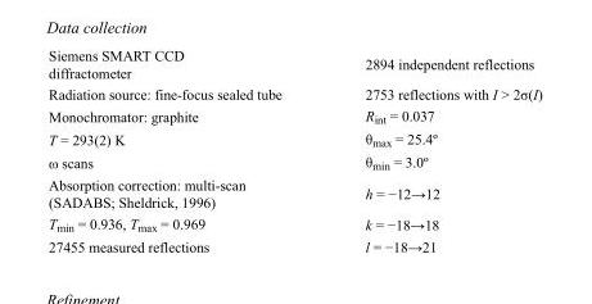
<table><tbody><tr><td>Siemens SMART CCD diffractometer</td><td>2894 independent reflections</td></tr><tr><td>Radiation source: fine-focus sealed tube</td><td>2753 reflections with I &gt; 2σ(I)</td></tr><tr><td>Monochromator: graphite</td><td>R<sub>int</sub> = 0.037</td></tr><tr><td>T = 293(2) K</td><td>θ<sub>max</sub> = 25.4º</td></tr><tr><td>ω scans</td><td>θ<sub>min</sub> = 3.0º</td></tr><tr><td>Absorption correction: multi-scan (SADABS; Sheldrick, 1996)</td><td>h = −12→12</td></tr><tr><td>T<sub>min</sub> = 0.936, T<sub>max</sub> = 0.969</td><td>k = −18→18</td></tr><tr><td>27455 measured reflections</td><td>l = −18→21</td></tr></tbody></table>